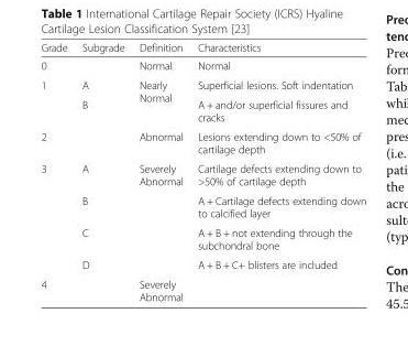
<table><thead><tr><td>Grade</td><td>Subgrade</td><td>Definition</td><td>Characteristics</td></tr></thead><tbody><tr><td>0</td><td></td><td>Normal</td><td>Normal</td></tr><tr><td rowspan="2">1</td><td>A</td><td rowspan="2">Nearly Normal</td><td>Superficial lesions. Soft indentation</td></tr><tr><td>B</td><td>A + and/or superficial fissures and cracks</td></tr><tr><td>2</td><td></td><td>Abnormal</td><td>Lesions extending down to &lt;50% of cartilage depth</td></tr><tr><td rowspan="4">3</td><td>A</td><td rowspan="4">Severely Abnormal</td><td>Cartilage defects extending down to &gt;50% of cartilage depth</td></tr><tr><td>B</td><td>A + Cartilage defects extending down to calcified layer</td></tr><tr><td>C</td><td>A + B + not extending through the subchondral bone</td></tr><tr><td>D</td><td>A + B + C+ blisters are included</td></tr><tr><td>4</td><td></td><td>Severely Abnormal</td><td></td></tr></tbody></table>